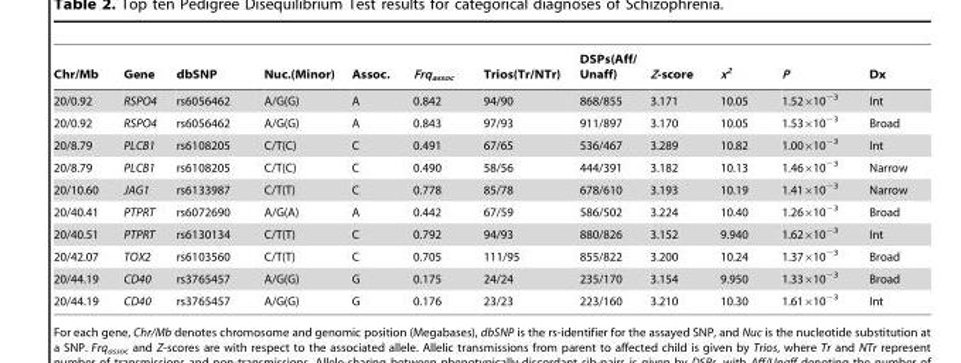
<table><thead><tr><td>Chr/Mb</td><td>Gene</td><td>dbSNP</td><td>Nuc.(Minor)</td><td>Assoc.</td><td>Frq<sub>assoc</sub></td><td>Trios(Tr/NTr)</td><td>DSPs(Aff/ Unaff)</td><td>Z-score</td><td>x<sup>2</sup></td><td>P</td><td>Dx</td></tr></thead><tbody><tr><td>20/0.92</td><td>RSPO4</td><td>rs6056462</td><td>A/G(G)</td><td>A</td><td>0.842</td><td>94/90</td><td>868/855</td><td>3.171</td><td>10.05</td><td>1.52×10<sup>−3</sup></td><td>Int</td></tr><tr><td>20/0.92</td><td>RSPO4</td><td>rs6056462</td><td>A/G(G)</td><td>A</td><td>0.843</td><td>97/93</td><td>911/897</td><td>3.170</td><td>10.05</td><td>1.53×10<sup>−3</sup></td><td>Broad</td></tr><tr><td>20/8.79</td><td>PLCB1</td><td>rs6108205</td><td>C/T(C)</td><td>C</td><td>0.491</td><td>67/65</td><td>536/467</td><td>3.289</td><td>10.82</td><td>1.00×10<sup>−3</sup></td><td>Int</td></tr><tr><td>20/8.79</td><td>PLCB1</td><td>rs6108205</td><td>C/T(C)</td><td>C</td><td>0.490</td><td>58/56</td><td>444/391</td><td>3.182</td><td>10.13</td><td>1.46×10<sup>−3</sup></td><td>Narrow</td></tr><tr><td>20/10.60</td><td>JAG1</td><td>rs6133987</td><td>C/T(T)</td><td>C</td><td>0.778</td><td>85/78</td><td>678/610</td><td>3.193</td><td>10.19</td><td>1.41×10<sup>−3</sup></td><td>Narrow</td></tr><tr><td>20/40.41</td><td>PTPRT</td><td>rs6072690</td><td>A/G(A)</td><td>A</td><td>0.442</td><td>67/59</td><td>586/502</td><td>3.224</td><td>10.40</td><td>1.26×10<sup>−3</sup></td><td>Broad</td></tr><tr><td>20/40.51</td><td>PTPRT</td><td>rs6130134</td><td>C/T(T)</td><td>C</td><td>0.792</td><td>94/93</td><td>880/826</td><td>3.152</td><td>9.940</td><td>1.62×10<sup>−3</sup></td><td>Int</td></tr><tr><td>20/42.07</td><td>TOX2</td><td>rs6103560</td><td>C/T(T)</td><td>C</td><td>0.705</td><td>111/95</td><td>855/822</td><td>3.200</td><td>10.24</td><td>1.37×10<sup>−3</sup></td><td>Broad</td></tr><tr><td>20/44.19</td><td>CD40</td><td>rs3765457</td><td>A/G(G)</td><td>G</td><td>0.175</td><td>24/24</td><td>235/170</td><td>3.154</td><td>9.950</td><td>1.33×10<sup>−3</sup></td><td>Broad</td></tr><tr><td>20/44.19</td><td>CD40</td><td>rs3765457</td><td>A/G(G)</td><td>G</td><td>0.176</td><td>23/23</td><td>223/160</td><td>3.210</td><td>10.30</td><td>1.61×10<sup>−3</sup></td><td>Int</td></tr></tbody></table>